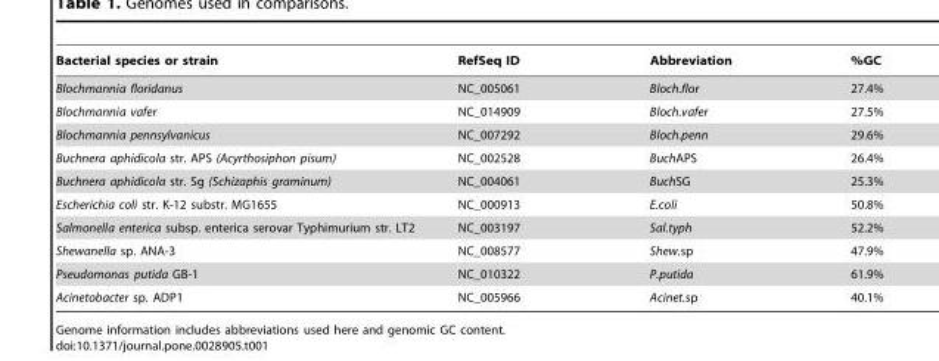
<table><thead><tr><td>Bacterial species or strain</td><td>RefSeq ID</td><td>Abbreviation</td><td>%GC</td></tr></thead><tbody><tr><td>Blochmannia floridanus</td><td>NC_005061</td><td>Bloch.flor</td><td>27.4%</td></tr><tr><td>Blochmannia vafer</td><td>NC_014909</td><td>Bloch.vafer</td><td>27.5%</td></tr><tr><td>Blochmannia pennsylvanicus</td><td>NC_007292</td><td>Bloch.penn</td><td>29.6%</td></tr><tr><td>Buchnera aphidicola str. APS (Acyrthosiphon pisum)</td><td>NC_002528</td><td>BuchAPS</td><td>26.4%</td></tr><tr><td>Buchnera aphidicola str. Sg (Schizaphis graminum)</td><td>NC_004061</td><td>BuchSG</td><td>25.3%</td></tr><tr><td>Escherichia coli str. K-12 substr. MG1655</td><td>NC_000913</td><td>E.coli</td><td>50.8%</td></tr><tr><td>Salmonella enterica subsp. enterica serovar Typhimurium str. LT2</td><td>NC_003197</td><td>Sal.typh</td><td>52.2%</td></tr><tr><td>Shewanella sp. ANA-3</td><td>NC_008577</td><td>Shew.sp</td><td>47.9%</td></tr><tr><td>Pseudomonas putida GB-1</td><td>NC_010322</td><td>P.putida</td><td>61.9%</td></tr><tr><td>Acinetobacter sp. ADP1</td><td>NC_005966</td><td>Acinet.sp</td><td>40.1%</td></tr></tbody></table>